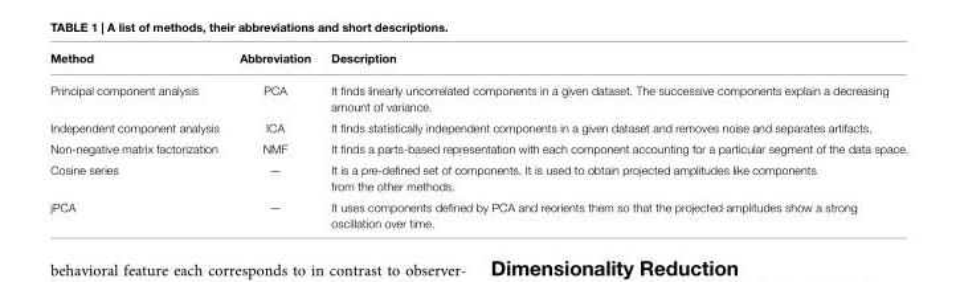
<table><thead><tr><td>Method</td><td>Abbreviation</td><td>Description</td></tr></thead><tbody><tr><td>Principal component analysis</td><td>PCA</td><td>It finds linearly uncorrelated components in a given dataset. The successive components explain a decreasing amount of variance.</td></tr><tr><td>Independent component analysis</td><td>ICA</td><td>It finds statistically independent components in a given dataset and removes noise and separates artifacts.</td></tr><tr><td>Non-negative matrix factorization</td><td>NMF</td><td>It finds a parts-based representation with each component accounting for a particular segment of the data space.</td></tr><tr><td>Cosine series</td><td>—</td><td>It is a pre-defined set of components. It is used to obtain projected amplitudes like components from the other methods.</td></tr><tr><td>jPCA</td><td>—</td><td>It uses components defined by PCA and reorients them so that the projected amplitudes show a strong oscillation over time.</td></tr></tbody></table>